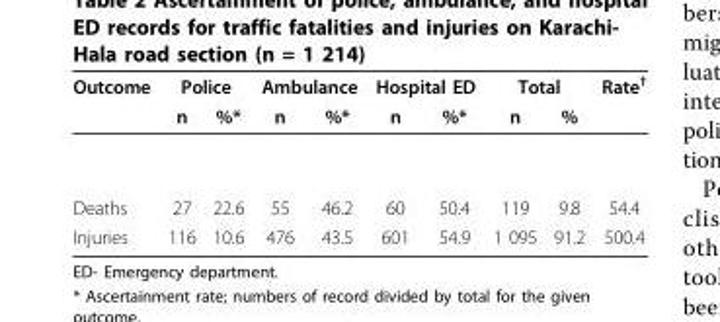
<table><thead><tr><td rowspan="2">Outcome</td><td colspan="2">Police</td><td colspan="2">Ambulance</td><td colspan="2">Hospital ED</td><td colspan="2">Total</td><td rowspan="2">Rate<sup>†</sup></td></tr><tr><td>n</td><td>%*</td><td>n</td><td>%*</td><td>n</td><td>%*</td><td>n</td><td>%</td></tr></thead><tbody><tr><td>Deaths</td><td>27</td><td>22.6</td><td>55</td><td>46.2</td><td>60</td><td>50.4</td><td>119</td><td>9.8</td><td>54.4</td></tr><tr><td>Injuries</td><td>116</td><td>10.6</td><td>476</td><td>43.5</td><td>601</td><td>54.9</td><td>1 095</td><td>91.2</td><td>500.4</td></tr></tbody></table>